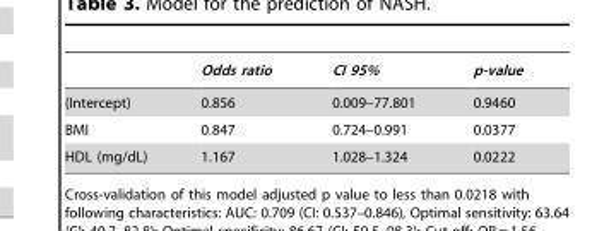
<table><thead><tr><td></td><td>Odds ratio</td><td>CI 95%</td><td>p-value</td></tr></thead><tbody><tr><td>(Intercept)</td><td>0.856</td><td>0.009–77.801</td><td>0.9460</td></tr><tr><td>BMI</td><td>0.847</td><td>0.724–0.991</td><td>0.0377</td></tr><tr><td>HDL (mg/dL)</td><td>1.167</td><td>1.028–1.324</td><td>0.0222</td></tr></tbody></table>